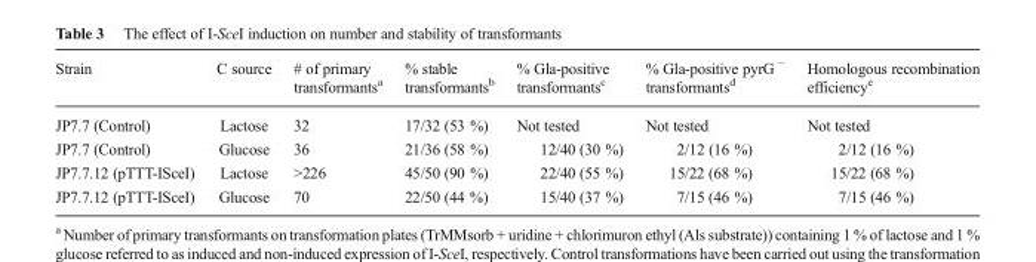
<table><thead><tr><td>Strain</td><td>C source</td><td># of primary transformants<sup>a</sup></td><td>% stable transformants<sup>b</sup></td><td>% Gla-positive transformants<sup>c</sup></td><td>% Gla-positive pyrG <sup>−</sup> transformants<sup>d</sup></td><td>Homologous recombination efficiency<sup>e</sup></td></tr></thead><tbody><tr><td>JP7.7 (Control)</td><td>Lactose</td><td>32</td><td>17/32 (53 %)</td><td>Not tested</td><td>Not tested</td><td>Not tested</td></tr><tr><td>JP7.7 (Control)</td><td>Glucose</td><td>36</td><td>21/36 (58 %)</td><td>12/40 (30 %)</td><td>2/12 (16 %)</td><td>2/12 (16 %)</td></tr><tr><td>JP7.7.12 (pTTT-ISceI)</td><td>Lactose</td><td>&gt;226</td><td>45/50 (90 %)</td><td>22/40 (55 %)</td><td>15/22 (68 %)</td><td>15/22 (68 %)</td></tr><tr><td>JP7.7.12 (pTTT-ISceI)</td><td>Glucose</td><td>70</td><td>22/50 (44 %)</td><td>15/40 (37 %)</td><td>7/15 (46 %)</td><td>7/15 (46 %)</td></tr></tbody></table>